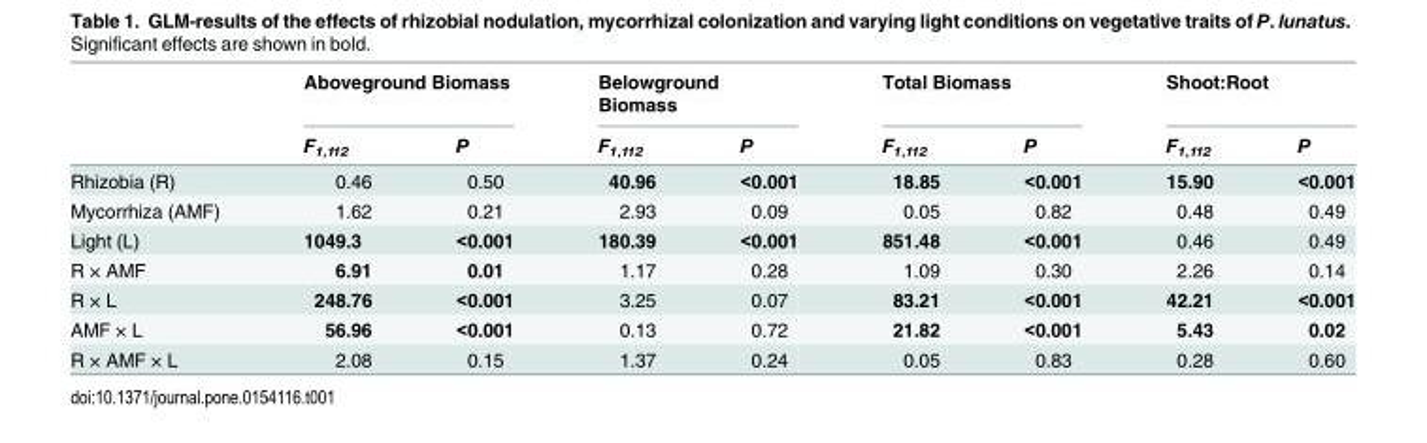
<table><thead><tr><td rowspan="2"></td><td colspan="2">Aboveground Biomass</td><td colspan="2">Belowground Biomass</td><td colspan="2">Total Biomass</td><td colspan="2">Shoot:Root</td></tr><tr><td>F<sub>1,112</sub></td><td>P</td><td>F<sub>1,112</sub></td><td>P</td><td>F<sub>1,112</sub></td><td>P</td><td>F<sub>1,112</sub></td><td>P</td></tr></thead><tbody><tr><td>Rhizobia (R)</td><td>0.46</td><td>0.50</td><td>40.96</td><td>&lt;0.001</td><td>18.85</td><td>&lt;0.001</td><td>15.90</td><td>&lt;0.001</td></tr><tr><td>Mycorrhiza (AMF)</td><td>1.62</td><td>0.21</td><td>2.93</td><td>0.09</td><td>0.05</td><td>0.82</td><td>0.48</td><td>0.49</td></tr><tr><td>Light (L)</td><td>1049.3</td><td>&lt;0.001</td><td>180.39</td><td>&lt;0.001</td><td>851.48</td><td>&lt;0.001</td><td>0.46</td><td>0.49</td></tr><tr><td>R × AMF</td><td>6.91</td><td>0.01</td><td>1.17</td><td>0.28</td><td>1.09</td><td>0.30</td><td>2.26</td><td>0.14</td></tr><tr><td>R × L</td><td>248.76</td><td>&lt;0.001</td><td>3.25</td><td>0.07</td><td>83.21</td><td>&lt;0.001</td><td>42.21</td><td>&lt;0.001</td></tr><tr><td>AMF × L</td><td>56.96</td><td>&lt;0.001</td><td>0.13</td><td>0.72</td><td>21.82</td><td>&lt;0.001</td><td>5.43</td><td>0.02</td></tr><tr><td>R × AMF × L</td><td>2.08</td><td>0.15</td><td>1.37</td><td>0.24</td><td>0.05</td><td>0.83</td><td>0.28</td><td>0.60</td></tr></tbody></table>